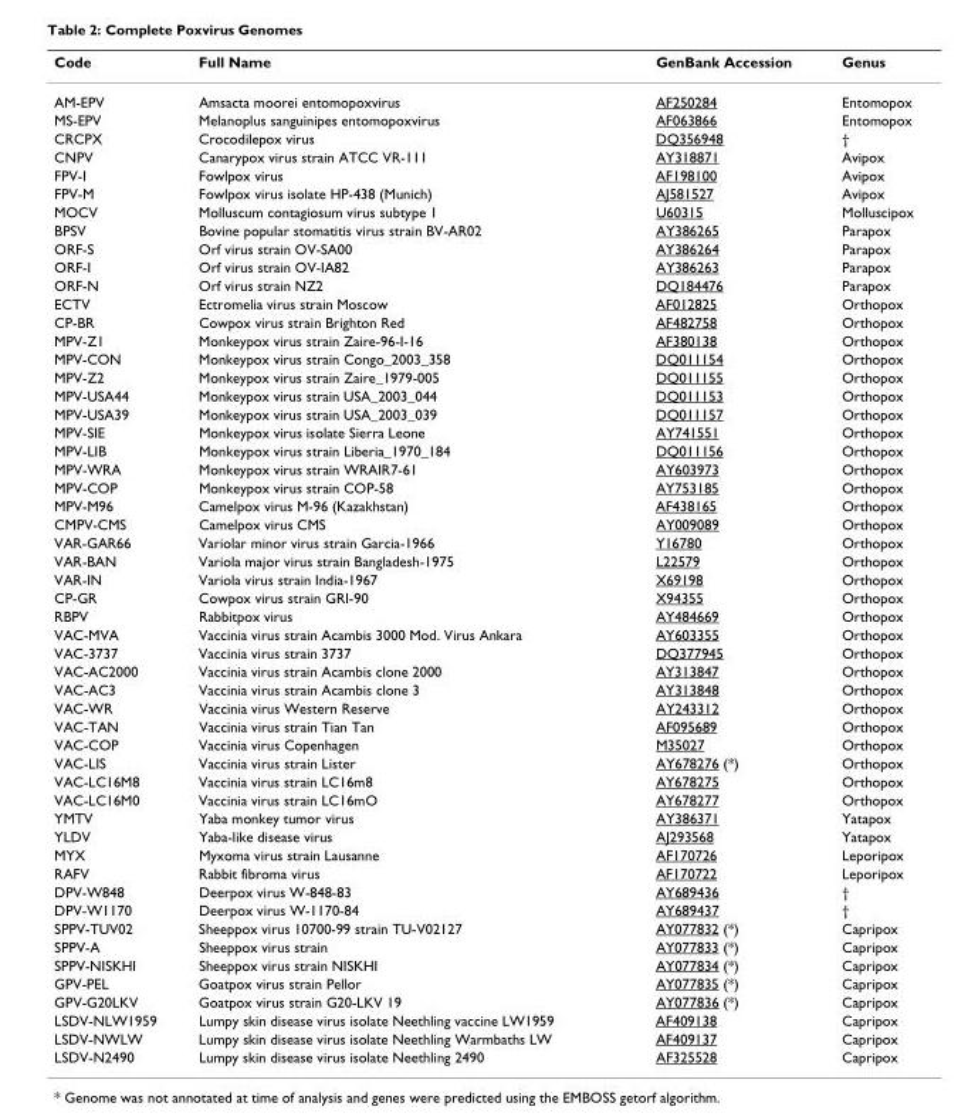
<table><thead><tr><td>Code</td><td>Full Name</td><td>GenBank Accession</td><td>Genus</td></tr></thead><tbody><tr><td>AM-EPV</td><td>Amsacta moorei entomopoxvirus</td><td>AF250284</td><td>Entomopox</td></tr><tr><td>MS-EPV</td><td>Melanoplus sanguinipes entomopoxvirus</td><td>AF063866</td><td>Entomopox</td></tr><tr><td>CRCPX</td><td>Crocodilepox virus</td><td>DQ356948</td><td>†</td></tr><tr><td>CNPV</td><td>Canarypox virus strain ATCC VR-111</td><td>AY318871</td><td>Avipox</td></tr><tr><td>FPV-I</td><td>Fowlpox virus</td><td>AF198100</td><td>Avipox</td></tr><tr><td>FPV-M</td><td>Fowlpox virus isolate HP-438 (Munich)</td><td>AJ581527</td><td>Avipox</td></tr><tr><td>MOCV</td><td>Molluscum contagiosum virus subtype 1</td><td>U60315</td><td>Molluscipox</td></tr><tr><td>BPSV</td><td>Bovine popular stomatitis virus strain BV-AR02</td><td>AY386265</td><td>Parapox</td></tr><tr><td>ORF-S</td><td>Orf virus strain OV-SA00</td><td>AY386264</td><td>Parapox</td></tr><tr><td>ORF-I</td><td>Orf virus strain OV-IA82</td><td>AY386263</td><td>Parapox</td></tr><tr><td>ORF-N</td><td>Orf virus strain NZ2</td><td>DQ184476</td><td>Parapox</td></tr><tr><td>ECTV</td><td>Ectromelia virus strain Moscow</td><td>AF012825</td><td>Orthopox</td></tr><tr><td>CP-BR</td><td>Cowpox virus strain Brighton Red</td><td>AF482758</td><td>Orthopox</td></tr><tr><td>MPV-Z1</td><td>Monkeypox virus strain Zaire-96-I-16</td><td>AF380138</td><td>Orthopox</td></tr><tr><td>MPV-CON</td><td>Monkeypox virus strain Congo_2003_358</td><td>DQ011154</td><td>Orthopox</td></tr><tr><td>MPV-Z2</td><td>Monkeypox virus strain Zaire_1979-005</td><td>DQ011155</td><td>Orthopox</td></tr><tr><td>MPV-USA44</td><td>Monkeypox virus strain USA_2003_044</td><td>DQ011153</td><td>Orthopox</td></tr><tr><td>MPV-USA39</td><td>Monkeypox virus strain USA_2003_039</td><td>DQ011157</td><td>Orthopox</td></tr><tr><td>MPV-SIE</td><td>Monkeypox virus isolate Sierra Leone</td><td>AY741551</td><td>Orthopox</td></tr><tr><td>MPV-LIB</td><td>Monkeypox virus strain Liberia_1970_184</td><td>DQ011156</td><td>Orthopox</td></tr><tr><td>MPV-WRA</td><td>Monkeypox virus strain WRAIR7-61</td><td>AY603973</td><td>Orthopox</td></tr><tr><td>MPV-COP</td><td>Monkeypox virus strain COP-58</td><td>AY753185</td><td>Orthopox</td></tr><tr><td>MPV-M96</td><td>Camelpox virus M-96 (Kazakhstan)</td><td>AF438165</td><td>Orthopox</td></tr><tr><td>CMPV-CMS</td><td>Camelpox virus CMS</td><td>AY009089</td><td>Orthopox</td></tr><tr><td>VAR-GAR66</td><td>Variolar minor virus strain Garcia-1966</td><td>Y16780</td><td>Orthopox</td></tr><tr><td>VAR-BAN</td><td>Variola major virus strain Bangladesh-1975</td><td>L22579</td><td>Orthopox</td></tr><tr><td>VAR-IN</td><td>Variola virus strain India-1967</td><td>X69198</td><td>Orthopox</td></tr><tr><td>CP-GR</td><td>Cowpox virus strain GRI-90</td><td>X94355</td><td>Orthopox</td></tr><tr><td>RBPV</td><td>Rabbitpox virus</td><td>AY484669</td><td>Orthopox</td></tr><tr><td>VAC-MVA</td><td>Vaccinia virus strain Acambis 3000 Mod. Virus Ankara</td><td>AY603355</td><td>Orthopox</td></tr><tr><td>VAC-3737</td><td>Vaccinia virus strain 3737</td><td>DQ377945</td><td>Orthopox</td></tr><tr><td>VAC-AC2000</td><td>Vaccinia virus strain Acambis clone 2000</td><td>AY313847</td><td>Orthopox</td></tr><tr><td>VAC-AC3</td><td>Vaccinia virus strain Acambis clone 3</td><td>AY313848</td><td>Orthopox</td></tr><tr><td>VAC-WR</td><td>Vaccinia virus Western Reserve</td><td>AY243312</td><td>Orthopox</td></tr><tr><td>VAC-TAN</td><td>Vaccinia virus strain Tian Tan</td><td>AF095689</td><td>Orthopox</td></tr><tr><td>VAC-COP</td><td>Vaccinia virus Copenhagen</td><td>M35027</td><td>Orthopox</td></tr><tr><td>VAC-LIS</td><td>Vaccinia virus strain Lister</td><td>AY678276 (*)</td><td>Orthopox</td></tr><tr><td>VAC-LC16M8</td><td>Vaccinia virus strain LC16m8</td><td>AY678275</td><td>Orthopox</td></tr><tr><td>VAC-LC16M0</td><td>Vaccinia virus strain LC16mO</td><td>AY678277</td><td>Orthopox</td></tr><tr><td>YMTV</td><td>Yaba monkey tumor virus</td><td>AY386371</td><td>Yatapox</td></tr><tr><td>YLDV</td><td>Yaba-like disease virus</td><td>AJ293568</td><td>Yatapox</td></tr><tr><td>MYX</td><td>Myxoma virus strain Lausanne</td><td>AF170726</td><td>Leporipox</td></tr><tr><td>RAFV</td><td>Rabbit fibroma virus</td><td>AF170722</td><td>Leporipox</td></tr><tr><td>DPV-W848</td><td>Deerpox virus W-848-83</td><td>AY689436</td><td>†</td></tr><tr><td>DPV-W1170</td><td>Deerpox virus W-1170-84</td><td>AY689437</td><td>†</td></tr><tr><td>SPPV-TUV02</td><td>Sheeppox virus 10700-99 strain TU-V02127</td><td>AY077832 (*)</td><td>Capripox</td></tr><tr><td>SPPV-A</td><td>Sheeppox virus strain</td><td>AY077833 (*)</td><td>Capripox</td></tr><tr><td>SPPV-NISKHI</td><td>Sheeppox virus strain NISKHI</td><td>AY077834 (*)</td><td>Capripox</td></tr><tr><td>GPV-PEL</td><td>Goatpox virus strain Pellor</td><td>AY077835 (*)</td><td>Capripox</td></tr><tr><td>GPV-G20LKV</td><td>Goatpox virus strain G20-LKV 19</td><td>AY077836 (*)</td><td>Capripox</td></tr><tr><td>LSDV-NLW1959</td><td>Lumpy skin disease virus isolate Neethling vaccine LW1959</td><td>AF409138</td><td>Capripox</td></tr><tr><td>LSDV-NWLW</td><td>Lumpy skin disease virus isolate Neethling Warmbaths LW</td><td>AF409137</td><td>Capripox</td></tr><tr><td>LSDV-N2490</td><td>Lumpy skin disease virus isolate Neethling 2490</td><td>AF325528</td><td>Capripox</td></tr></tbody></table>